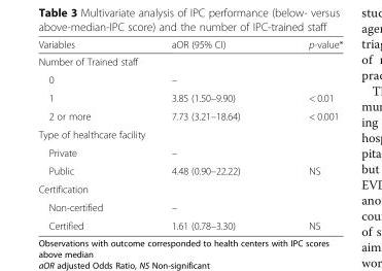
<table><thead><tr><td>Variables</td><td>aOR (95% CI)</td><td>p-value*</td></tr></thead><tbody><tr><td colspan="3">Number of Trained staff</td></tr><tr><td>0</td><td>–</td><td></td></tr><tr><td>1</td><td>3.85 (1.50–9.90)</td><td>&lt; 0.01</td></tr><tr><td>2 or more</td><td>7.73 (3.21–18.64)</td><td>&lt; 0.001</td></tr><tr><td colspan="3">Type of healthcare facility</td></tr><tr><td>Private</td><td>–</td><td></td></tr><tr><td>Public</td><td>4.48 (0.90–22.22)</td><td>NS</td></tr><tr><td colspan="3">Certification</td></tr><tr><td>Non-certified</td><td>–</td><td></td></tr><tr><td>Certified</td><td>1.61 (0.78–3.30)</td><td>NS</td></tr></tbody></table>